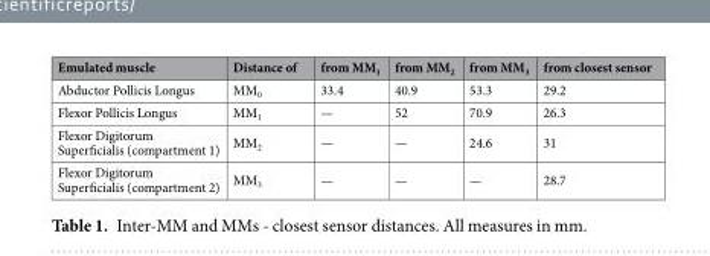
<table><thead><tr><td>Emulated muscle</td><td>Distance of</td><td>from MM<sub>1</sub></td><td>from MM<sub>2</sub></td><td>from MM<sub>3</sub></td><td>from closest sensor</td></tr></thead><tbody><tr><td>Abductor Pollicis Longus</td><td>MM<sub>0</sub></td><td>33.4</td><td>40.9</td><td>53.3</td><td>29.2</td></tr><tr><td>Flexor Pollicis Longus</td><td>MM<sub>1</sub></td><td>—</td><td>52</td><td>70.9</td><td>26.3</td></tr><tr><td>Flexor Digitorum Superficialis (compartment 1)</td><td>MM<sub>2</sub></td><td>—</td><td>—</td><td>24.6</td><td>31</td></tr><tr><td>Flexor Digitorum Superficialis (compartment 2)</td><td>MM<sub>3</sub></td><td>—</td><td>—</td><td>—</td><td>28.7</td></tr></tbody></table>